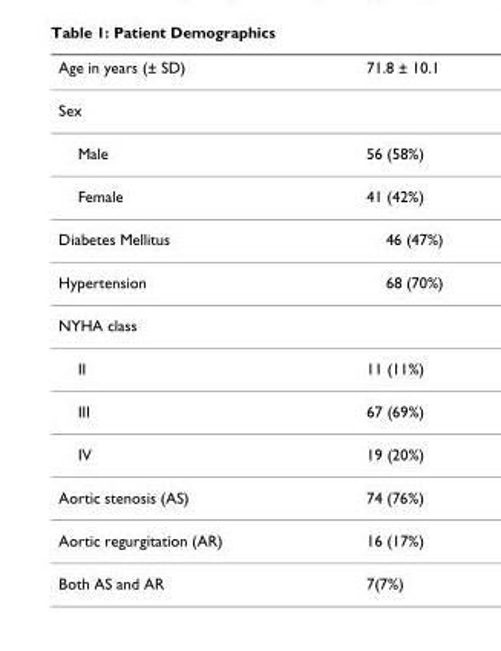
<table><thead><tr><td>Age in years (± SD)</td><td>71.8 ± 10.1</td></tr></thead><tbody><tr><td colspan="2">Sex</td></tr><tr><td>Male</td><td>56 (58%)</td></tr><tr><td>Female</td><td>41 (42%)</td></tr><tr><td>Diabetes Mellitus</td><td>46 (47%)</td></tr><tr><td>Hypertension</td><td>68 (70%)</td></tr><tr><td colspan="2">NYHA class</td></tr><tr><td>II</td><td>11 (11%)</td></tr><tr><td>III</td><td>67 (69%)</td></tr><tr><td>IV</td><td>19 (20%)</td></tr><tr><td>Aortic stenosis (AS)</td><td>74 (76%)</td></tr><tr><td>Aortic regurgitation (AR)</td><td>16 (17%)</td></tr><tr><td>Both AS and AR</td><td>7(7%)</td></tr></tbody></table>